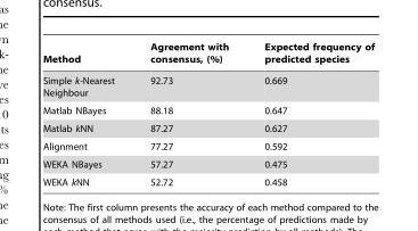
<table><thead><tr><td>Method</td><td>Agreement with consensus, (%)</td><td>Expected frequency of predicted species</td></tr></thead><tbody><tr><td>Simple k-Nearest Neighbour</td><td>92.73</td><td>0.669</td></tr><tr><td>Matlab NBayes</td><td>88.18</td><td>0.647</td></tr><tr><td>Matlab kNN</td><td>87.27</td><td>0.627</td></tr><tr><td>Alignment</td><td>77.27</td><td>0.592</td></tr><tr><td>WEKA NBayes</td><td>57.27</td><td>0.475</td></tr><tr><td>WEKA kNN</td><td>52.72</td><td>0.458</td></tr></tbody></table>